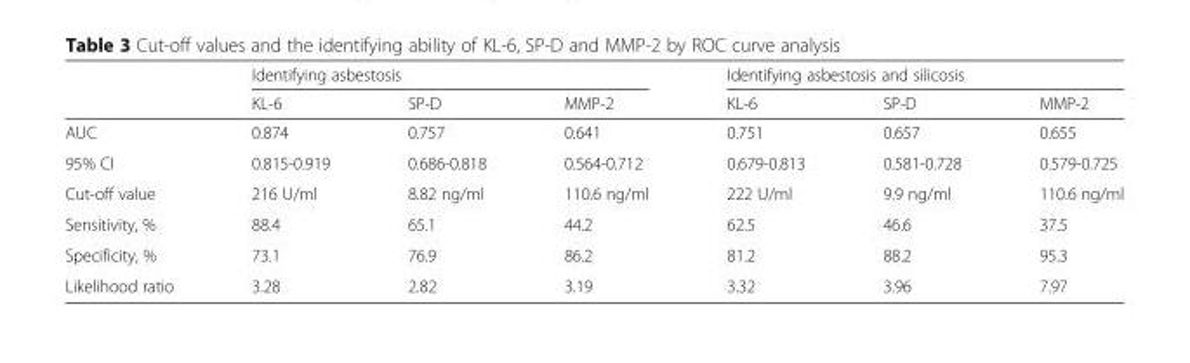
<table><thead><tr><td rowspan="2"></td><td colspan="3">Identifying asbestosis</td><td colspan="3">Identifying asbestosis and silicosis</td></tr><tr><td>KL-6</td><td>SP-D</td><td>MMP-2</td><td>KL-6</td><td>SP-D</td><td>MMP-2</td></tr></thead><tbody><tr><td>AUC</td><td>0.874</td><td>0.757</td><td>0.641</td><td>0.751</td><td>0.657</td><td>0.655</td></tr><tr><td>95% CI</td><td>0.815-0.919</td><td>0.686-0.818</td><td>0.564-0.712</td><td>0.679-0.813</td><td>0.581-0.728</td><td>0.579-0.725</td></tr><tr><td>Cut-off value</td><td>216 U/ml</td><td>8.82 ng/ml</td><td>110.6 ng/ml</td><td>222 U/ml</td><td>9.9 ng/ml</td><td>110.6 ng/ml</td></tr><tr><td>Sensitivity, %</td><td>88.4</td><td>65.1</td><td>44.2</td><td>62.5</td><td>46.6</td><td>37.5</td></tr><tr><td>Specificity, %</td><td>73.1</td><td>76.9</td><td>86.2</td><td>81.2</td><td>88.2</td><td>95.3</td></tr><tr><td>Likelihood ratio</td><td>3.28</td><td>2.82</td><td>3.19</td><td>3.32</td><td>3.96</td><td>7.97</td></tr></tbody></table>